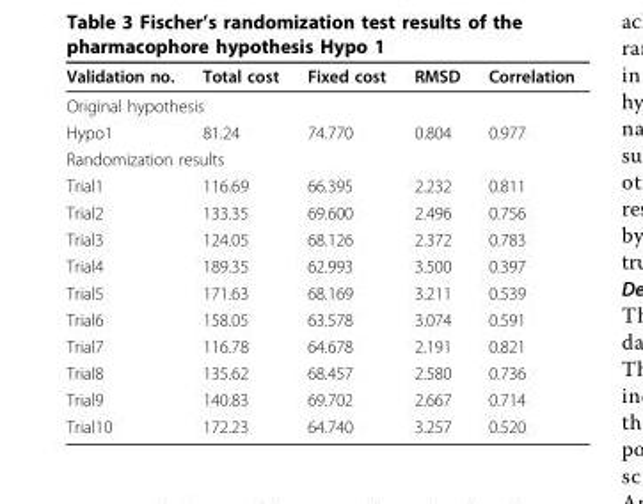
<table><thead><tr><td>Validation no.</td><td>Total cost</td><td>Fixed cost</td><td>RMSD</td><td>Correlation</td></tr></thead><tbody><tr><td colspan="5">Original hypothesis</td></tr><tr><td>Hypo1</td><td>81.24</td><td>74.770</td><td>0.804</td><td>0.977</td></tr><tr><td colspan="5">Randomization results</td></tr><tr><td>Trial1</td><td>116.69</td><td>66.395</td><td>2.232</td><td>0.811</td></tr><tr><td>Trial2</td><td>133.35</td><td>69.600</td><td>2.496</td><td>0.756</td></tr><tr><td>Trial3</td><td>124.05</td><td>68.126</td><td>2.372</td><td>0.783</td></tr><tr><td>Trial4</td><td>189.35</td><td>62.993</td><td>3.500</td><td>0.397</td></tr><tr><td>Trial5</td><td>171.63</td><td>68.169</td><td>3.211</td><td>0.539</td></tr><tr><td>Trial6</td><td>158.05</td><td>63.578</td><td>3.074</td><td>0.591</td></tr><tr><td>Trial7</td><td>116.78</td><td>64.678</td><td>2.191</td><td>0.821</td></tr><tr><td>Trial8</td><td>135.62</td><td>68.457</td><td>2.580</td><td>0.736</td></tr><tr><td>Trial9</td><td>140.83</td><td>69.702</td><td>2.667</td><td>0.714</td></tr><tr><td>Trial10</td><td>172.23</td><td>64.740</td><td>3.257</td><td>0.520</td></tr></tbody></table>